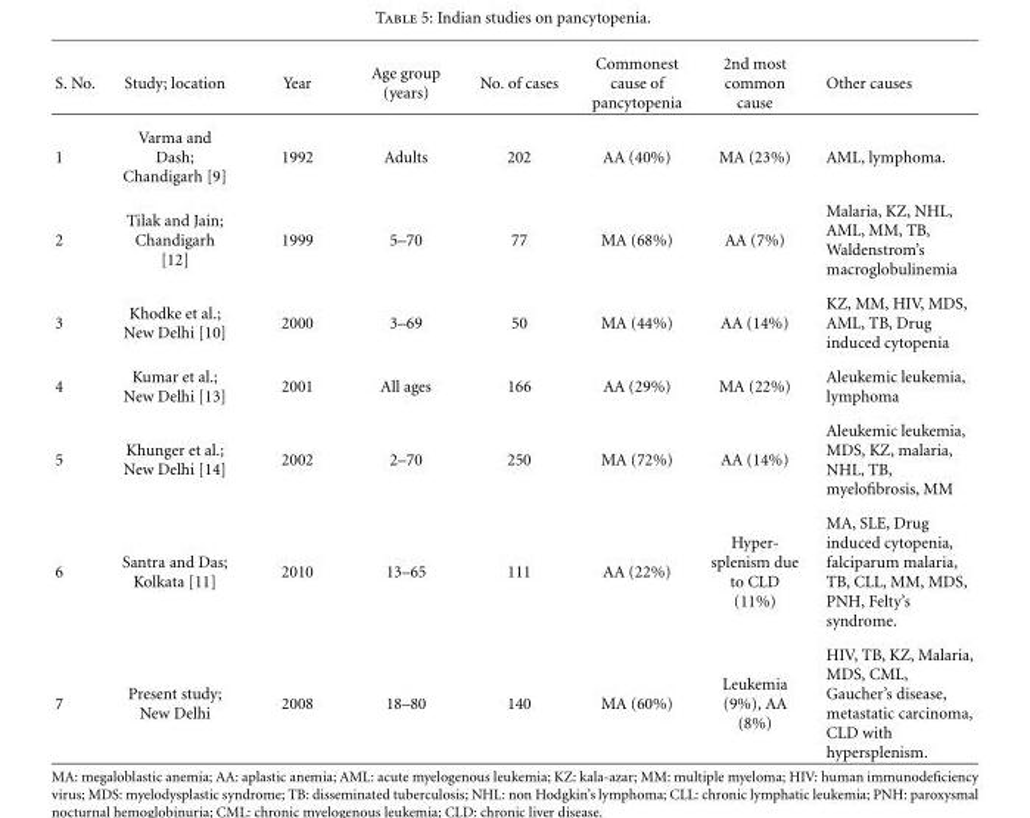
<table><thead><tr><td>S. No.</td><td>Study; location</td><td>Year</td><td>Age group (years)</td><td>No. of cases</td><td>Commonest cause of pancytopenia</td><td>2nd most common cause</td><td>Other causes</td></tr></thead><tbody><tr><td>1</td><td>Varma and Dash; Chandigarh [9]</td><td>1992</td><td>Adults</td><td>202</td><td>AA (40%)</td><td>MA (23%)</td><td>AML, lymphoma.</td></tr><tr><td>2</td><td>Tilak and Jain; Chandigarh [12]</td><td>1999</td><td>5–70</td><td>77</td><td>MA (68%)</td><td>AA (7%)</td><td>Malaria, KZ, NHL, AML, MM, TB, Waldenstrom’s macroglobulinemia</td></tr><tr><td>3</td><td>Khodke et al.; New Delhi [10]</td><td>2000</td><td>3–69</td><td>50</td><td>MA (44%)</td><td>AA (14%)</td><td>KZ, MM, HIV, MDS, AML, TB, Drug induced cytopenia</td></tr><tr><td>4</td><td>Kumar et al.; New Delhi [13]</td><td>2001</td><td>All ages</td><td>166</td><td>AA (29%)</td><td>MA (22%)</td><td>Aleukemic leukemia, lymphoma</td></tr><tr><td>5</td><td>Khunger et al.; New Delhi [14]</td><td>2002</td><td>2–70</td><td>250</td><td>MA (72%)</td><td>AA (14%)</td><td>Aleukemic leukemia, MDS, KZ, malaria, NHL, TB, myelofibrosis, MM</td></tr><tr><td>6</td><td>Santra and Das; Kolkata [11]</td><td>2010</td><td>13–65</td><td>111</td><td>AA (22%)</td><td>Hyper- splenism due to CLD (11%)</td><td>MA, SLE, Drug induced cytopenia, falciparum malaria, TB, CLL, MM, MDS, PNH, Felty’s syndrome.</td></tr><tr><td>7</td><td>Present study; New Delhi</td><td>2008</td><td>18–80</td><td>140</td><td>MA (60%)</td><td>Leukemia (9%), AA (8%)</td><td>HIV, TB, KZ, Malaria, MDS, CML, Gaucher’s disease, metastatic carcinoma, CLD with hypersplenism.</td></tr></tbody></table>